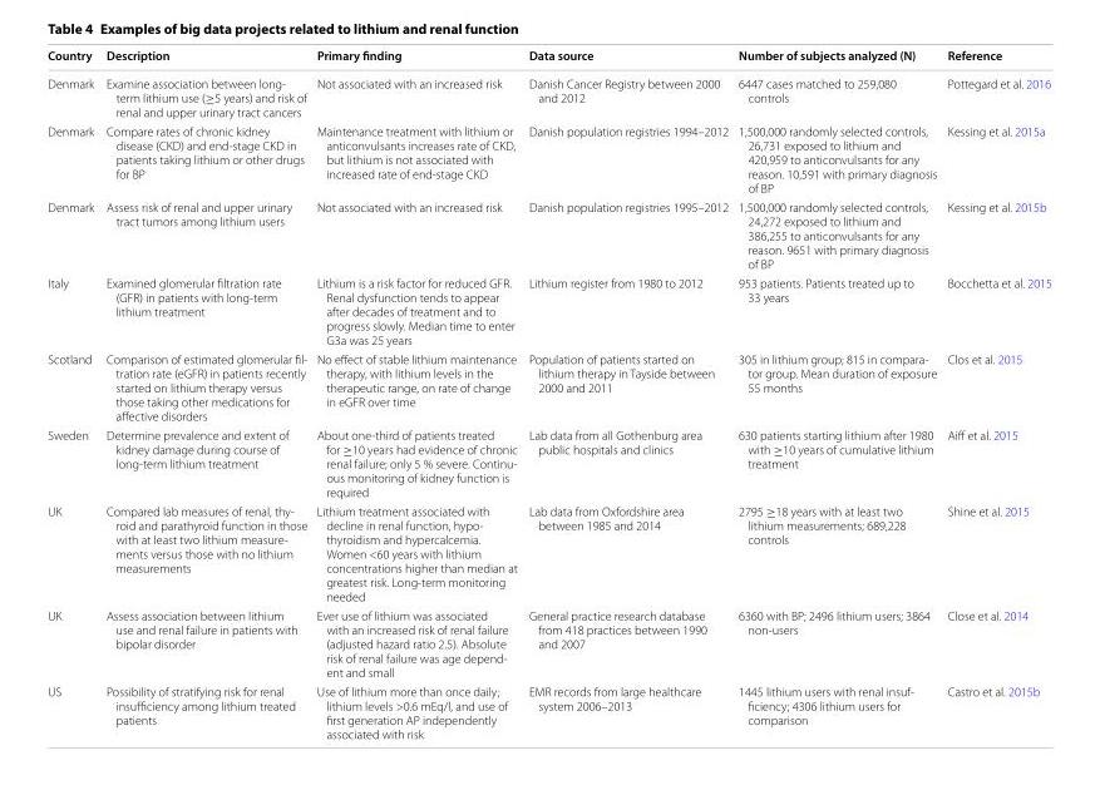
<table><thead><tr><td>Country</td><td>Description</td><td>Primary finding</td><td>Data source</td><td>Number of subjects analyzed (N)</td><td>Reference</td></tr></thead><tbody><tr><td>Denmark</td><td>Examine association between long‑ term lithium use (≥5 years) and risk of renal and upper urinary tract cancers</td><td>Not associated with an increased risk</td><td>Danish Cancer Registry between 2000 and 2012</td><td>6447 cases matched to 259,080 controls</td><td>Pottegard et al. 2016</td></tr><tr><td>Denmark</td><td>Compare rates of chronic kidney disease (CKD) and end‑stage CKD in patients taking lithium or other drugs for BP</td><td>Maintenance treatment with lithium or anticonvulsants increases rate of CKD, but lithium is not associated with increased rate of end‑stage CKD</td><td>Danish population registries 1994–2012</td><td>1,500,000 randomly selected controls, 26,731 exposed to lithium and 420,959 to anticonvulsants for any reason. 10,591 with primary diagnosis of BP</td><td>Kessing et al. 2015a</td></tr><tr><td>Denmark</td><td>Assess risk of renal and upper urinary tract tumors among lithium users</td><td>Not associated with an increased risk</td><td>Danish population registries 1995–2012</td><td>1,500,000 randomly selected controls, 24,272 exposed to lithium and 386,255 to anticonvulsants for any reason. 9651 with primary diagnosis of BP</td><td>Kessing et al. 2015b</td></tr><tr><td>Italy</td><td>Examined glomerular filtration rate (GFR) in patients with long‑term lithium treatment</td><td>Lithium is a risk factor for reduced GFR. Renal dysfunction tends to appear after decades of treatment and to progress slowly. Median time to enter G3a was 25 years</td><td>Lithium register from 1980 to 2012</td><td>953 patients. Patients treated up to 33 years</td><td>Bocchetta et al. 2015</td></tr><tr><td>Scotland</td><td>Comparison of estimated glomerular fil‑ tration rate (eGFR) in patients recently started on lithium therapy versus those taking other medications for affective disorders</td><td>No effect of stable lithium maintenance therapy, with lithium levels in the therapeutic range, on rate of change in eGFR over time</td><td>Population of patients started on lithium therapy in Tayside between 2000 and 2011</td><td>305 in lithium group; 815 in compara‑ tor group. Mean duration of exposure 55 months</td><td>Clos et al. 2015</td></tr><tr><td>Sweden</td><td>Determine prevalence and extent of kidney damage during course of long‑term lithium treatment</td><td>About one‑third of patients treated for ≥10 years had evidence of chronic renal failure; only 5 % severe. Continu‑ ous monitoring of kidney function is required</td><td>Lab data from all Gothenburg area public hospitals and clinics</td><td>630 patients starting lithium after 1980 with ≥10 years of cumulative lithium treatment</td><td>Aiff et al. 2015</td></tr><tr><td>UK</td><td>Compared lab measures of renal, thy‑ roid and parathyroid function in those with at least two lithium measure‑ ments versus those with no lithium measurements</td><td>Lithium treatment associated with decline in renal function, hypo‑ thyroidism and hypercalcemia. Women &lt;60 years with lithium concentrations higher than median at greatest risk. Long‑term monitoring needed</td><td>Lab data from Oxfordshire area between 1985 and 2014</td><td>2795 ≥18 years with at least two lithium measurements; 689,228 controls</td><td>Shine et al. 2015</td></tr><tr><td>UK</td><td>Assess association between lithium use and renal failure in patients with bipolar disorder</td><td>Ever use of lithium was associated with an increased risk of renal failure (adjusted hazard ratio 2.5). Absolute risk of renal failure was age depend‑ ent and small</td><td>General practice research database from 418 practices between 1990 and 2007</td><td>6360 with BP; 2496 lithium users; 3864 non‑users</td><td>Close et al. 2014</td></tr><tr><td>US</td><td>Possibility of stratifying risk for renal insufficiency among lithium treated patients</td><td>Use of lithium more than once daily; lithium levels &gt;0.6 mEq/l, and use of first generation AP independently associated with risk</td><td>EMR records from large healthcare system 2006–2013</td><td>1445 lithium users with renal insuf‑ ficiency; 4306 lithium users for comparison</td><td>Castro et al. 2015b</td></tr></tbody></table>